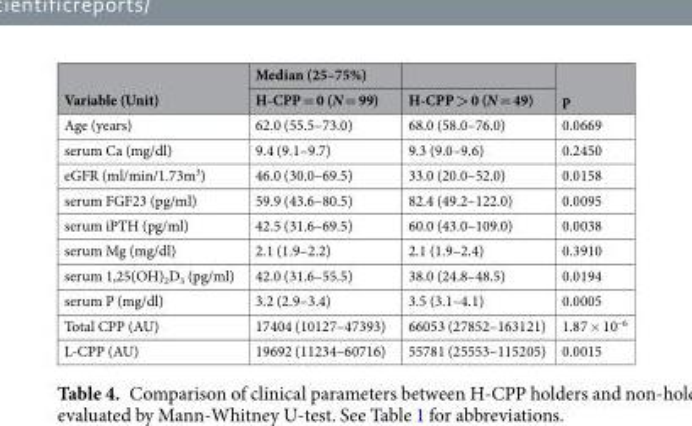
<table><thead><tr><td rowspan="2">Variable (Unit)</td><td rowspan="2">Median (25–75%) H-CPP = 0 (N = 99)</td><td rowspan="2">H-CPP &gt; 0 (N = 49)</td><td rowspan="2">p</td></tr><tr></tr></thead><tbody><tr><td>Age (years)</td><td>62.0 (55.5–73.0)</td><td>68.0 (58.0–76.0)</td><td>0.0669</td></tr><tr><td>serum Ca (mg/dl)</td><td>9.4 (9.1–9.7)</td><td>9.3 (9.0–9.6)</td><td>0.2450</td></tr><tr><td>eGFR (ml/min/1.73m<sup>3</sup>)</td><td>46.0 (30.0–69.5)</td><td>33.0 (20.0–52.0)</td><td>0.0158</td></tr><tr><td>serum FGF23 (pg/ml)</td><td>59.9 (43.6–80.5)</td><td>82.4 (49.2–122.0)</td><td>0.0095</td></tr><tr><td>serum iPTH (pg/ml)</td><td>42.5 (31.6–69.5)</td><td>60.0 (43.0–109.0)</td><td>0.0038</td></tr><tr><td>serum Mg (mg/dl)</td><td>2.1 (1.9–2.2)</td><td>2.1 (1.9–2.4)</td><td>0.3910</td></tr><tr><td>serum 1,25(OH)<sub>2</sub>D<sub>3</sub> (pg/ml)</td><td>42.0 (31.6–55.5)</td><td>38.0 (24.8–48.5)</td><td>0.0194</td></tr><tr><td>serum P (mg/dl)</td><td>3.2 (2.9–3.4)</td><td>3.5 (3.1–4.1)</td><td>0.0005</td></tr><tr><td>Total CPP (AU)</td><td>17404 (10127–47393)</td><td>66053 (27852–163121)</td><td>1.87 × 10<sup>–6</sup></td></tr><tr><td>L-CPP (AU)</td><td>19692 (11234–60716)</td><td>55781 (25553–115205)</td><td>0.0015</td></tr></tbody></table>